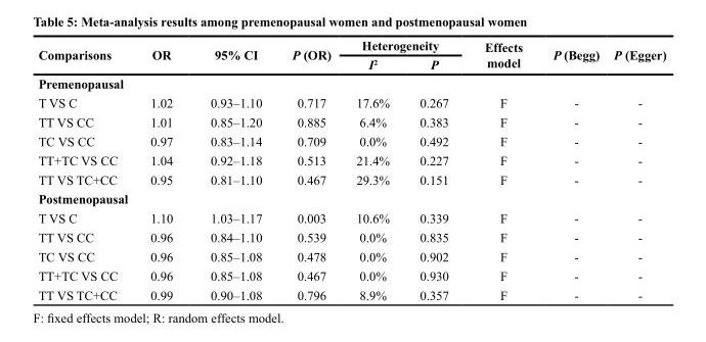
<table><thead><tr><td rowspan="2">Comparisons</td><td rowspan="2">OR</td><td rowspan="2">95% CI</td><td rowspan="2">P (OR)</td><td colspan="2">Heterogeneity</td><td rowspan="2">Effects model</td><td rowspan="2">P (Begg)</td><td rowspan="2">P (Egger)</td></tr><tr><td>I<sup>2</sup></td><td>P</td></tr></thead><tbody><tr><td colspan="9">Premenopausal</td></tr><tr><td>T VS C</td><td>1.02</td><td>0.93–1.10</td><td>0.717</td><td>17.6%</td><td>0.267</td><td>F</td><td>-</td><td>-</td></tr><tr><td>TT VS CC</td><td>1.01</td><td>0.85–1.20</td><td>0.885</td><td>6.4%</td><td>0.383</td><td>F</td><td>-</td><td>-</td></tr><tr><td>TC VS CC</td><td>0.97</td><td>0.83–1.14</td><td>0.709</td><td>0.0%</td><td>0.492</td><td>F</td><td>-</td><td>-</td></tr><tr><td>TT+TC VS CC</td><td>1.04</td><td>0.92–1.18</td><td>0.513</td><td>21.4%</td><td>0.227</td><td>F</td><td>-</td><td>-</td></tr><tr><td>TT VS TC+CC</td><td>0.95</td><td>0.81–1.10</td><td>0.467</td><td>29.3%</td><td>0.151</td><td>F</td><td>-</td><td>-</td></tr><tr><td colspan="9">Postmenopausal</td></tr><tr><td>T VS C</td><td>1.10</td><td>1.03–1.17</td><td>0.003</td><td>10.6%</td><td>0.339</td><td>F</td><td>-</td><td>-</td></tr><tr><td>TT VS CC</td><td>0.96</td><td>0.84–1.10</td><td>0.539</td><td>0.0%</td><td>0.835</td><td>F</td><td>-</td><td>-</td></tr><tr><td>TC VS CC</td><td>0.96</td><td>0.85–1.08</td><td>0.478</td><td>0.0%</td><td>0.902</td><td>F</td><td>-</td><td>-</td></tr><tr><td>TT+TC VS CC</td><td>0.96</td><td>0.85–1.08</td><td>0.467</td><td>0.0%</td><td>0.930</td><td>F</td><td>-</td><td>-</td></tr><tr><td>TT VS TC+CC</td><td>0.99</td><td>0.90–1.08</td><td>0.796</td><td>8.9%</td><td>0.357</td><td>F</td><td>-</td><td>-</td></tr></tbody></table>